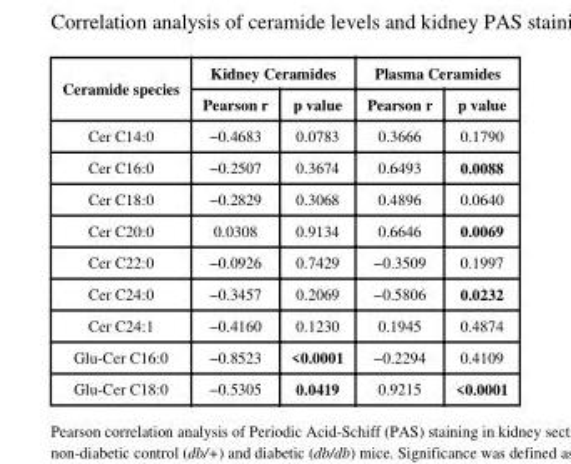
<table><thead><tr><td rowspan="2">Ceramide species</td><td colspan="2">Kidney Ceramides</td><td colspan="2">Plasma Ceramides</td></tr><tr><td>Pearson r</td><td>p value</td><td>Pearson r</td><td>p value</td></tr></thead><tbody><tr><td>Cer C14:0</td><td>−0.4683</td><td>0.0783</td><td>0.3666</td><td>0.1790</td></tr><tr><td>Cer C16:0</td><td>−0.2507</td><td>0.3674</td><td>0.6493</td><td>0.0088</td></tr><tr><td>Cer C18:0</td><td>−0.2829</td><td>0.3068</td><td>0.4896</td><td>0.0640</td></tr><tr><td>Cer C20:0</td><td>0.0308</td><td>0.9134</td><td>0.6646</td><td>0.0069</td></tr><tr><td>Cer C22:0</td><td>−0.0926</td><td>0.7429</td><td>−0.3509</td><td>0.1997</td></tr><tr><td>Cer C24:0</td><td>−0.3457</td><td>0.2069</td><td>−0.5806</td><td>0.0232</td></tr><tr><td>Cer C24:1</td><td>−0.4160</td><td>0.1230</td><td>0.1945</td><td>0.4874</td></tr><tr><td>Glu-Cer C16:0</td><td>−0.8523</td><td>&lt;0.0001</td><td>−0.2294</td><td>0.4109</td></tr><tr><td>Glu-Cer C18:0</td><td>−0.5305</td><td>0.0419</td><td>0.9215</td><td>&lt;0.0001</td></tr></tbody></table>